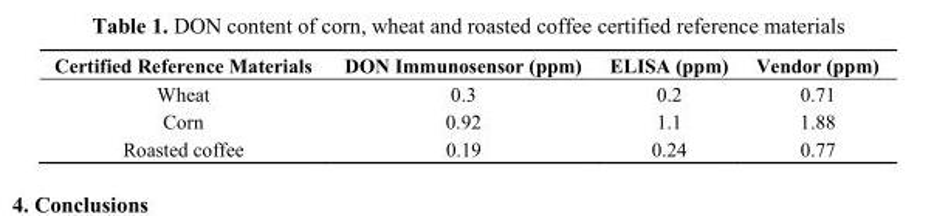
<table><thead><tr><td>Certified Reference Materials</td><td>DON Immunosensor (ppm)</td><td>ELISA (ppm)</td><td>Vendor (ppm)</td></tr></thead><tbody><tr><td>Wheat</td><td>0.3</td><td>0.2</td><td>0.71</td></tr><tr><td>Corn</td><td>0.92</td><td>1.1</td><td>1.88</td></tr><tr><td>Roasted coffee</td><td>0.19</td><td>0.24</td><td>0.77</td></tr></tbody></table>